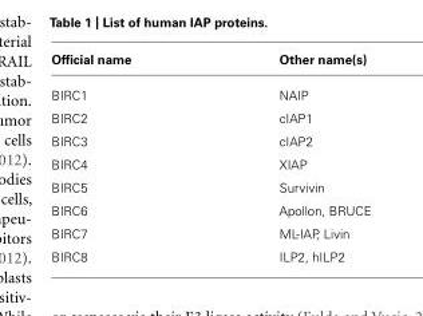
<table><thead><tr><td>Official name</td><td>Other name(s)</td></tr></thead><tbody><tr><td>BIRC1</td><td>NAIP</td></tr><tr><td>BIRC2</td><td>cIAP1</td></tr><tr><td>BIRC3</td><td>cIAP2</td></tr><tr><td>BIRC4</td><td>XIAP</td></tr><tr><td>BIRC5</td><td>Survivin</td></tr><tr><td>BIRC6</td><td>Apollon, BRUCE</td></tr><tr><td>BIRC7</td><td>ML-IAP, Livin</td></tr><tr><td>BIRC8</td><td>ILP2, hILP2</td></tr></tbody></table>